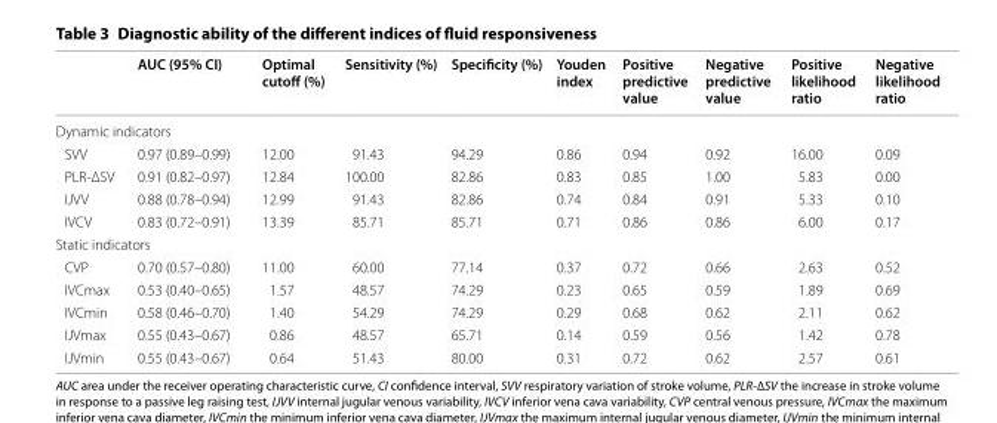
<table><thead><tr><td></td><td>AUC (95% CI)</td><td>Optimal cutoff (%)</td><td>Sensitivity (%)</td><td>Specificity (%)</td><td>Youden index</td><td>Positive predictive value</td><td>Negative predictive value</td><td>Positive likelihood ratio</td><td>Negative likelihood ratio</td></tr></thead><tbody><tr><td colspan="10">Dynamic indicators</td></tr><tr><td>SVV</td><td>0.97 (0.89–0.99)</td><td>12.00</td><td>91.43</td><td>94.29</td><td>0.86</td><td>0.94</td><td>0.92</td><td>16.00</td><td>0.09</td></tr><tr><td>PLR‑ΔSV</td><td>0.91 (0.82–0.97)</td><td>12.84</td><td>100.00</td><td>82.86</td><td>0.83</td><td>0.85</td><td>1.00</td><td>5.83</td><td>0.00</td></tr><tr><td>IJVV</td><td>0.88 (0.78–0.94)</td><td>12.99</td><td>91.43</td><td>82.86</td><td>0.74</td><td>0.84</td><td>0.91</td><td>5.33</td><td>0.10</td></tr><tr><td>IVCV</td><td>0.83 (0.72–0.91)</td><td>13.39</td><td>85.71</td><td>85.71</td><td>0.71</td><td>0.86</td><td>0.86</td><td>6.00</td><td>0.17</td></tr><tr><td colspan="10">Static indicators</td></tr><tr><td>CVP</td><td>0.70 (0.57–0.80)</td><td>11.00</td><td>60.00</td><td>77.14</td><td>0.37</td><td>0.72</td><td>0.66</td><td>2.63</td><td>0.52</td></tr><tr><td>IVCmax</td><td>0.53 (0.40–0.65)</td><td>1.57</td><td>48.57</td><td>74.29</td><td>0.23</td><td>0.65</td><td>0.59</td><td>1.89</td><td>0.69</td></tr><tr><td>IVCmin</td><td>0.58 (0.46–0.70)</td><td>1.40</td><td>54.29</td><td>74.29</td><td>0.29</td><td>0.68</td><td>0.62</td><td>2.11</td><td>0.62</td></tr><tr><td>IJVmax</td><td>0.55 (0.43–0.67)</td><td>0.86</td><td>48.57</td><td>65.71</td><td>0.14</td><td>0.59</td><td>0.56</td><td>1.42</td><td>0.78</td></tr><tr><td>IJVmin</td><td>0.55 (0.43–0.67)</td><td>0.64</td><td>51.43</td><td>80.00</td><td>0.31</td><td>0.72</td><td>0.62</td><td>2.57</td><td>0.61</td></tr></tbody></table>